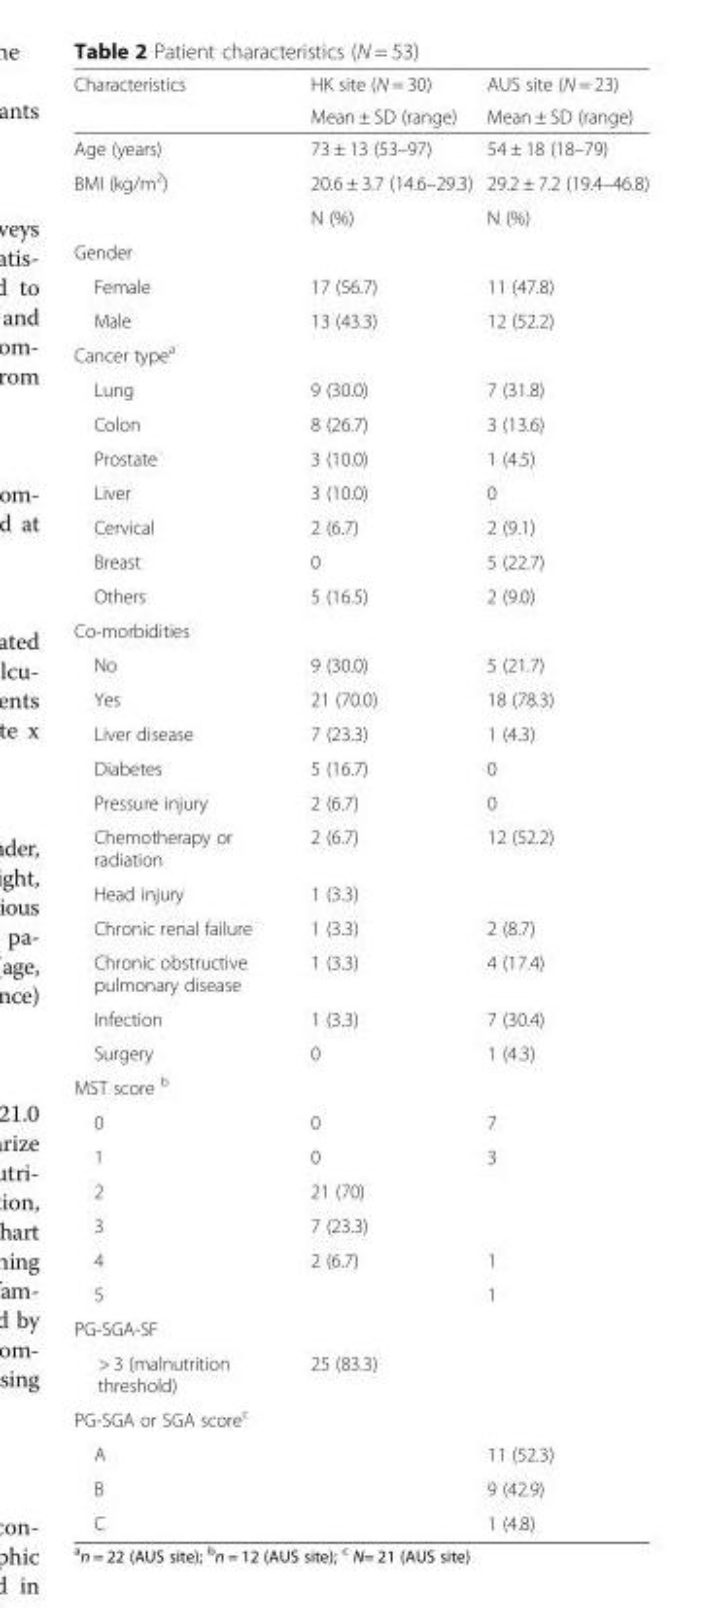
<table><thead><tr><td rowspan="2">Characteristics</td><td rowspan="2">HK site (N = 30) Mean ± SD (range)</td><td rowspan="2">AUS site (N = 23) Mean ± SD (range)</td></tr><tr></tr></thead><tbody><tr><td>Age (years)</td><td>73 ± 13 (53–97)</td><td>54 ± 18 (18–79)</td></tr><tr><td rowspan="2">BMI (kg/m<sup>2</sup>)</td><td>20.6 ± 3.7 (14.6–29.3)</td><td>29.2 ± 7.2 (19.4–46.8)</td></tr><tr><td>N (%)</td><td>N (%)</td></tr><tr><td colspan="3">Gender</td></tr><tr><td>Female</td><td>17 (56.7)</td><td>11 (47.8)</td></tr><tr><td>Male</td><td>13 (43.3)</td><td>12 (52.2)</td></tr><tr><td colspan="3">Cancer type<sup>a</sup></td></tr><tr><td>Lung</td><td>9 (30.0)</td><td>7 (31.8)</td></tr><tr><td>Colon</td><td>8 (26.7)</td><td>3 (13.6)</td></tr><tr><td>Prostate</td><td>3 (10.0)</td><td>1 (4.5)</td></tr><tr><td>Liver</td><td>3 (10.0)</td><td>0</td></tr><tr><td>Cervical</td><td>2 (6.7)</td><td>2 (9.1)</td></tr><tr><td>Breast</td><td>0</td><td>5 (22.7)</td></tr><tr><td>Others</td><td>5 (16.5)</td><td>2 (9.0)</td></tr><tr><td colspan="3">Co-morbidities</td></tr><tr><td>No</td><td>9 (30.0)</td><td>5 (21.7)</td></tr><tr><td>Yes</td><td>21 (70.0)</td><td>18 (78.3)</td></tr><tr><td>Liver disease</td><td>7 (23.3)</td><td>1 (4.3)</td></tr><tr><td>Diabetes</td><td>5 (16.7)</td><td>0</td></tr><tr><td>Pressure injury</td><td>2 (6.7)</td><td>0</td></tr><tr><td>Chemotherapy or radiation</td><td>2 (6.7)</td><td>12 (52.2)</td></tr><tr><td>Head injury</td><td>1 (3.3)</td><td></td></tr><tr><td>Chronic renal failure</td><td>1 (3.3)</td><td>2 (8.7)</td></tr><tr><td>Chronic obstructive pulmonary disease</td><td>1 (3.3)</td><td>4 (17.4)</td></tr><tr><td>Infection</td><td>1 (3.3)</td><td>7 (30.4)</td></tr><tr><td>Surgery</td><td>0</td><td>1 (4.3)</td></tr><tr><td colspan="3">MST score <sup>b</sup></td></tr><tr><td>0</td><td>0</td><td>7</td></tr><tr><td>1</td><td>0</td><td>3</td></tr><tr><td>2</td><td>21 (70)</td><td></td></tr><tr><td>3</td><td>7 (23.3)</td><td></td></tr><tr><td>4</td><td>2 (6.7)</td><td>1</td></tr><tr><td>5</td><td></td><td>1</td></tr><tr><td colspan="3">PG-SGA-SF</td></tr><tr><td>&gt; 3 (malnutrition threshold)</td><td>25 (83.3)</td><td></td></tr><tr><td colspan="3">PG-SGA or SGA score<sup>c</sup></td></tr><tr><td>A</td><td></td><td>11 (52.3)</td></tr><tr><td>B</td><td></td><td>9 (42.9)</td></tr><tr><td>C</td><td></td><td>1 (4.8)</td></tr></tbody></table>